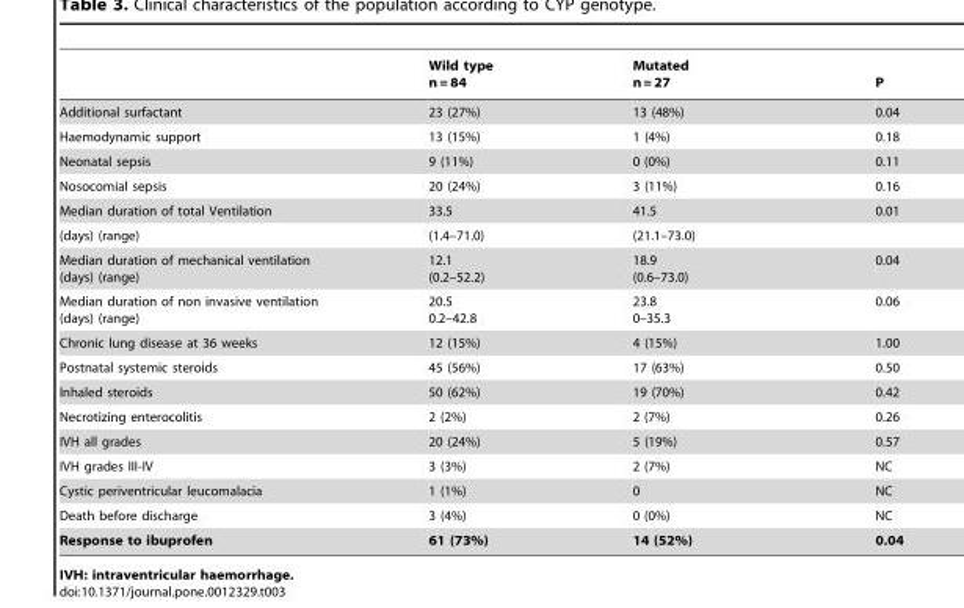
<table><thead><tr><td></td><td>Wild type n = 84</td><td>Mutated n = 27</td><td>P</td></tr></thead><tbody><tr><td>Additional surfactant</td><td>23 (27%)</td><td>13 (48%)</td><td>0.04</td></tr><tr><td>Haemodynamic support</td><td>13 (15%)</td><td>1 (4%)</td><td>0.18</td></tr><tr><td>Neonatal sepsis</td><td>9 (11%)</td><td>0 (0%)</td><td>0.11</td></tr><tr><td>Nosocomial sepsis</td><td>20 (24%)</td><td>3 (11%)</td><td>0.16</td></tr><tr><td>Median duration of total Ventilation</td><td>33.5</td><td>41.5</td><td>0.01</td></tr><tr><td>(days) (range)</td><td>(1.4–71.0)</td><td>(21.1–73.0)</td><td></td></tr><tr><td>Median duration of mechanical ventilation (days) (range)</td><td>12.1 (0.2–52.2)</td><td>18.9 (0.6–73.0)</td><td>0.04</td></tr><tr><td>Median duration of non invasive ventilation (days) (range)</td><td>20.5 0.2–42.8</td><td>23.8 0–35.3</td><td>0.06</td></tr><tr><td>Chronic lung disease at 36 weeks</td><td>12 (15%)</td><td>4 (15%)</td><td>1.00</td></tr><tr><td>Postnatal systemic steroids</td><td>45 (56%)</td><td>17 (63%)</td><td>0.50</td></tr><tr><td>Inhaled steroids</td><td>50 (62%)</td><td>19 (70%)</td><td>0.42</td></tr><tr><td>Necrotizing enterocolitis</td><td>2 (2%)</td><td>2 (7%)</td><td>0.26</td></tr><tr><td>IVH all grades</td><td>20 (24%)</td><td>5 (19%)</td><td>0.57</td></tr><tr><td>IVH grades III-IV</td><td>3 (3%)</td><td>2 (7%)</td><td>NC</td></tr><tr><td>Cystic periventricular leucomalacia</td><td>1 (1%)</td><td>0</td><td>NC</td></tr><tr><td>Death before discharge</td><td>3 (4%)</td><td>0 (0%)</td><td>NC</td></tr><tr><td>Response to ibuprofen</td><td>61 (73%)</td><td>14 (52%)</td><td>0.04</td></tr></tbody></table>